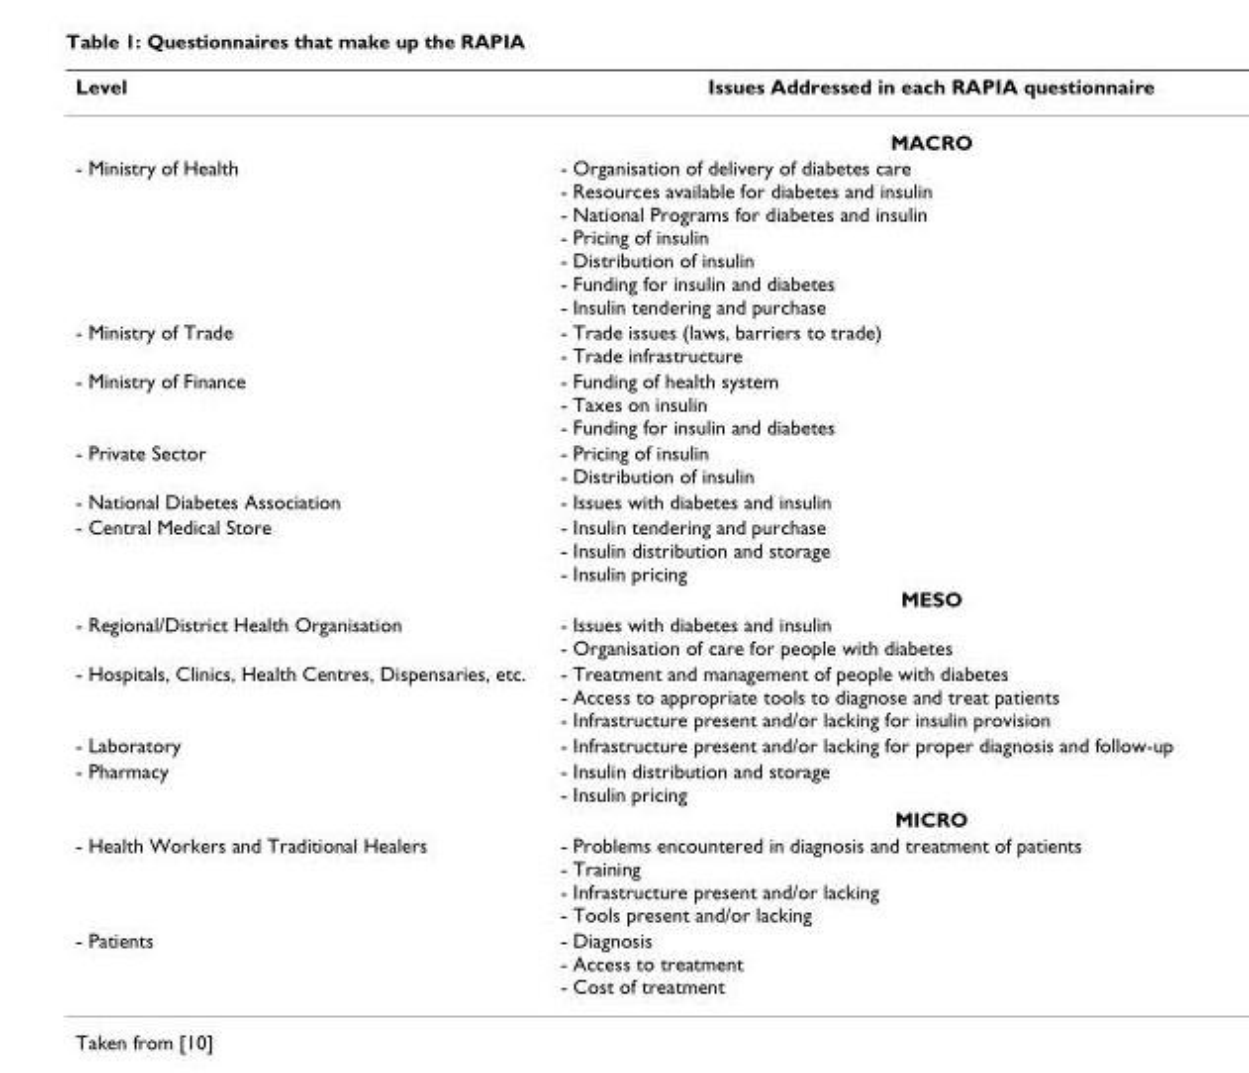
<table><thead><tr><td>Level</td><td>Issues Addressed in each RAPIA questionnaire</td></tr></thead><tbody><tr><td></td><td>MACRO</td></tr><tr><td>- Ministry of Health</td><td>- Organisation of delivery of diabetes care - Resources available for diabetes and insulin - National Programs for diabetes and insulin - Pricing of insulin - Distribution of insulin - Funding for insulin and diabetes - Insulin tendering and purchase</td></tr><tr><td>- Ministry of Trade</td><td>- Trade issues (laws, barriers to trade) - Trade infrastructure</td></tr><tr><td>- Ministry of Finance</td><td>- Funding of health system - Taxes on insulin - Funding for insulin and diabetes</td></tr><tr><td>- Private Sector</td><td>- Pricing of insulin - Distribution of insulin</td></tr><tr><td>- National Diabetes Association</td><td>- Issues with diabetes and insulin</td></tr><tr><td rowspan="2">- Central Medical Store</td><td>- Insulin tendering and purchase - Insulin distribution and storage - Insulin pricing</td></tr><tr><td>MESO</td></tr><tr><td>- Regional/District Health Organisation</td><td>- Issues with diabetes and insulin - Organisation of care for people with diabetes</td></tr><tr><td>- Hospitals, Clinics, Health Centres, Dispensaries, etc.</td><td>- Treatment and management of people with diabetes - Access to appropriate tools to diagnose and treat patients - Infrastructure present and/or lacking for insulin provision</td></tr><tr><td>- Laboratory</td><td>- Infrastructure present and/or lacking for proper diagnosis and follow-up</td></tr><tr><td rowspan="2">- Pharmacy</td><td>- Insulin distribution and storage - Insulin pricing</td></tr><tr><td>MICRO</td></tr><tr><td>- Health Workers and Traditional Healers</td><td>- Problems encountered in diagnosis and treatment of patients - Training - Infrastructure present and/or lacking - Tools present and/or lacking</td></tr><tr><td>- Patients</td><td>- Diagnosis - Access to treatment - Cost of treatment</td></tr></tbody></table>